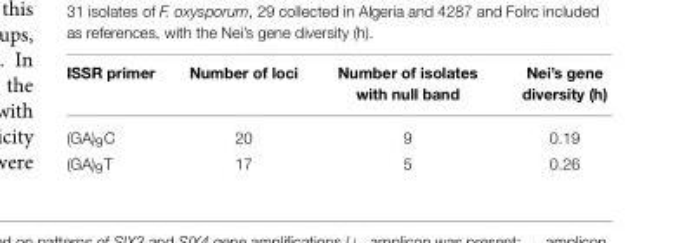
<table><thead><tr><td>ISSR primer</td><td>Number of loci</td><td>Number of isolates with null band</td><td>Nei’s gene diversity (h)</td></tr></thead><tbody><tr><td>(GA)<sub>9</sub>C</td><td>20</td><td>9</td><td>0.19</td></tr><tr><td>(GA)<sub>9</sub>T</td><td>17</td><td>5</td><td>0.26</td></tr></tbody></table>